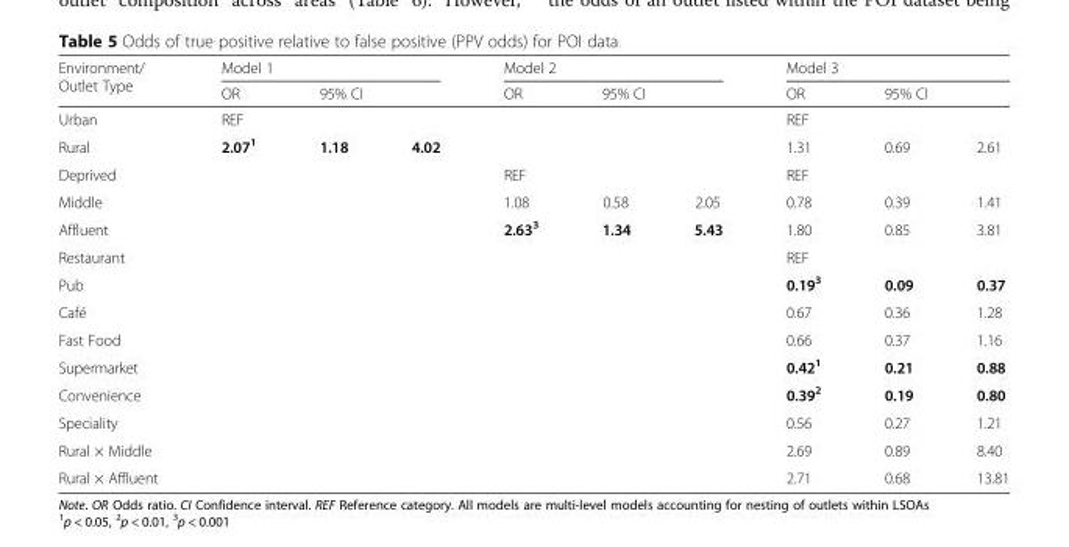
<table><thead><tr><td rowspan="3">Environment/ Outlet Type Urban</td><td colspan="3">Model 1</td><td colspan="3">Model 2</td><td colspan="3">Model 3</td></tr><tr><td rowspan="2">OR REF</td><td colspan="2">95% CI</td><td rowspan="2">OR</td><td colspan="2">95% CI</td><td rowspan="2">OR REF</td><td colspan="2">95% CI</td></tr><tr><td></td><td></td><td></td><td></td><td></td><td></td></tr></thead><tbody><tr><td>Rural</td><td>2.07<sup>1</sup></td><td>1.18</td><td>4.02</td><td></td><td></td><td></td><td>1.31</td><td>0.69</td><td>2.61</td></tr><tr><td>Deprived</td><td></td><td></td><td></td><td>REF</td><td></td><td></td><td>REF</td><td></td><td></td></tr><tr><td>Middle</td><td></td><td></td><td></td><td>1.08</td><td>0.58</td><td>2.05</td><td>0.78</td><td>0.39</td><td>1.41</td></tr><tr><td>Affluent</td><td></td><td></td><td></td><td>2.63<sup>3</sup></td><td>1.34</td><td>5.43</td><td>1.80</td><td>0.85</td><td>3.81</td></tr><tr><td>Restaurant</td><td></td><td></td><td></td><td></td><td></td><td></td><td>REF</td><td></td><td></td></tr><tr><td>Pub</td><td></td><td></td><td></td><td></td><td></td><td></td><td>0.19<sup>3</sup></td><td>0.09</td><td>0.37</td></tr><tr><td>Café</td><td></td><td></td><td></td><td></td><td></td><td></td><td>0.67</td><td>0.36</td><td>1.28</td></tr><tr><td>Fast Food</td><td></td><td></td><td></td><td></td><td></td><td></td><td>0.66</td><td>0.37</td><td>1.16</td></tr><tr><td>Supermarket</td><td></td><td></td><td></td><td></td><td></td><td></td><td>0.42<sup>1</sup></td><td>0.21</td><td>0.88</td></tr><tr><td>Convenience</td><td></td><td></td><td></td><td></td><td></td><td></td><td>0.39<sup>2</sup></td><td>0.19</td><td>0.80</td></tr><tr><td>Speciality</td><td></td><td></td><td></td><td></td><td></td><td></td><td>0.56</td><td>0.27</td><td>1.21</td></tr><tr><td>Rural × Middle</td><td></td><td></td><td></td><td></td><td></td><td></td><td>2.69</td><td>0.89</td><td>8.40</td></tr><tr><td>Rural × Affluent</td><td></td><td></td><td></td><td></td><td></td><td></td><td>2.71</td><td>0.68</td><td>13.81</td></tr></tbody></table>